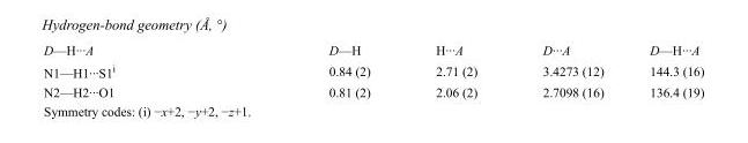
<table><tbody><tr><td>D—H···A</td><td>D—H</td><td>H···A</td><td>D···A</td><td>D—H···A</td></tr><tr><td>N1—H1···S1<sup>i</sup></td><td>0.84 (2)</td><td>2.71 (2)</td><td>3.4273 (12)</td><td>144.3 (16)</td></tr><tr><td>N2—H2···O1</td><td>0.81 (2)</td><td>2.06 (2)</td><td>2.7098 (16)</td><td>136.4 (19)</td></tr></tbody></table>